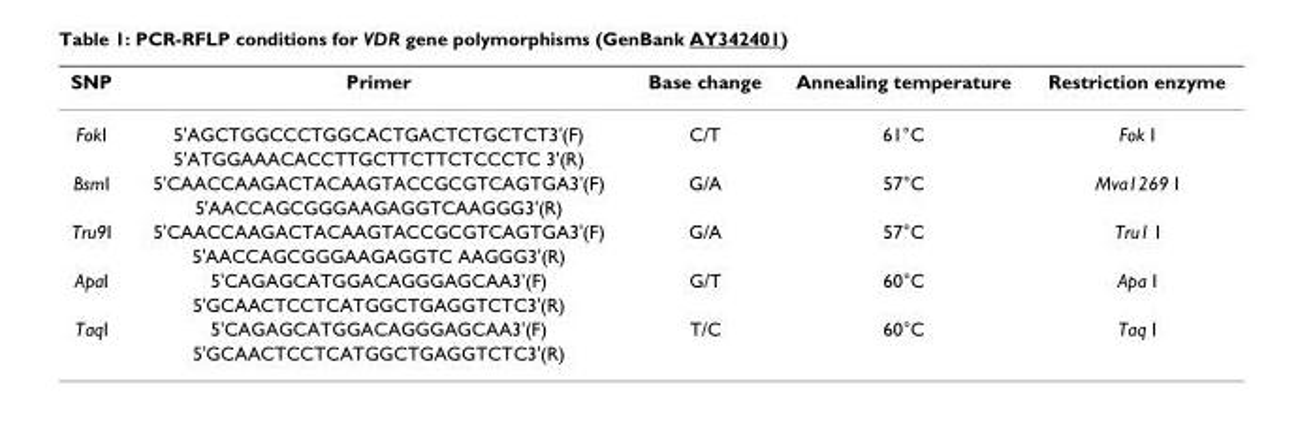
<table><thead><tr><td>SNP</td><td>Primer</td><td>Base change</td><td>Annealing temperature</td><td>Restriction enzyme</td></tr></thead><tbody><tr><td rowspan="2">FokI</td><td>5&#x27;AGCTGGCCCTGGCACTGACTCTGCTCT3&#x27;(F)</td><td>C/T</td><td>61°C</td><td>Fok I</td></tr><tr><td>5&#x27;ATGGAAACACCTTGCTTCTTCTCCCTC 3&#x27;(R)</td><td></td><td></td><td></td></tr><tr><td rowspan="2">BsmI</td><td>5&#x27;CAACCAAGACTACAAGTACCGCGTCAGTGA3&#x27;(F)</td><td>G/A</td><td>57°C</td><td>Mva1269 I</td></tr><tr><td>5&#x27;AACCAGCGGGAAGAGGTCAAGGG3&#x27;(R)</td><td></td><td></td><td></td></tr><tr><td rowspan="2">Tru9I</td><td>5&#x27;CAACCAAGACTACAAGTACCGCGTCAGTGA3&#x27;(F)</td><td>G/A</td><td>57°C</td><td>Tru1 I</td></tr><tr><td>5&#x27;AACCAGCGGGAAGAGGTC AAGGG3&#x27;(R)</td><td></td><td></td><td></td></tr><tr><td rowspan="2">ApaI</td><td>5&#x27;CAGAGCATGGACAGGGAGCAA3&#x27;(F)</td><td>G/T</td><td>60°C</td><td>Apa I</td></tr><tr><td>5&#x27;GCAACTCCTCATGGCTGAGGTCTC3&#x27;(R)</td><td></td><td></td><td></td></tr><tr><td rowspan="2">TaqI</td><td>5&#x27;CAGAGCATGGACAGGGAGCAA3&#x27;(F)</td><td>T/C</td><td>60°C</td><td>Taq I</td></tr><tr><td>5&#x27;GCAACTCCTCATGGCTGAGGTCTC3&#x27;(R)</td><td></td><td></td><td></td></tr></tbody></table>